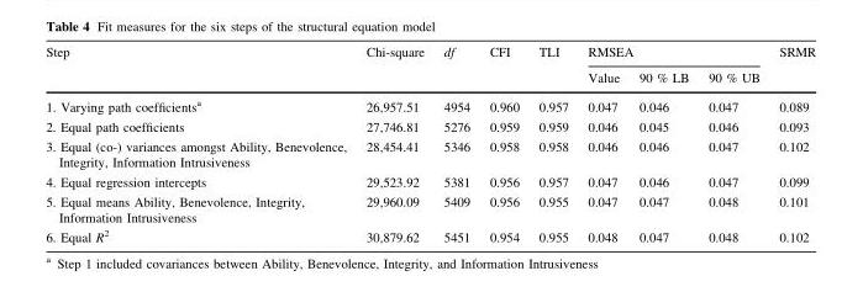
<table><thead><tr><td rowspan="2">Step</td><td rowspan="2">Chi-square</td><td rowspan="2">df</td><td rowspan="2">CFI</td><td rowspan="2">TLI</td><td colspan="3">RMSEA</td><td rowspan="2">SRMR</td></tr><tr><td>Value</td><td>90 % LB</td><td>90 % UB</td></tr></thead><tbody><tr><td>1. Varying path coefficients<sup>a</sup></td><td>26,957.51</td><td>4954</td><td>0.960</td><td>0.957</td><td>0.047</td><td>0.046</td><td>0.047</td><td>0.089</td></tr><tr><td>2. Equal path coefficients</td><td>27,746.81</td><td>5276</td><td>0.959</td><td>0.959</td><td>0.046</td><td>0.045</td><td>0.046</td><td>0.093</td></tr><tr><td>3. Equal (co-) variances amongst Ability, Benevolence, Integrity, Information Intrusiveness</td><td>28,454.41</td><td>5346</td><td>0.958</td><td>0.958</td><td>0.046</td><td>0.046</td><td>0.047</td><td>0.102</td></tr><tr><td>4. Equal regression intercepts</td><td>29,523.92</td><td>5381</td><td>0.956</td><td>0.957</td><td>0.047</td><td>0.046</td><td>0.047</td><td>0.099</td></tr><tr><td>5. Equal means Ability, Benevolence, Integrity, Information Intrusiveness</td><td>29,960.09</td><td>5409</td><td>0.956</td><td>0.955</td><td>0.047</td><td>0.047</td><td>0.048</td><td>0.101</td></tr><tr><td>6. Equal R<sup>2</sup></td><td>30,879.62</td><td>5451</td><td>0.954</td><td>0.955</td><td>0.048</td><td>0.047</td><td>0.048</td><td>0.102</td></tr></tbody></table>